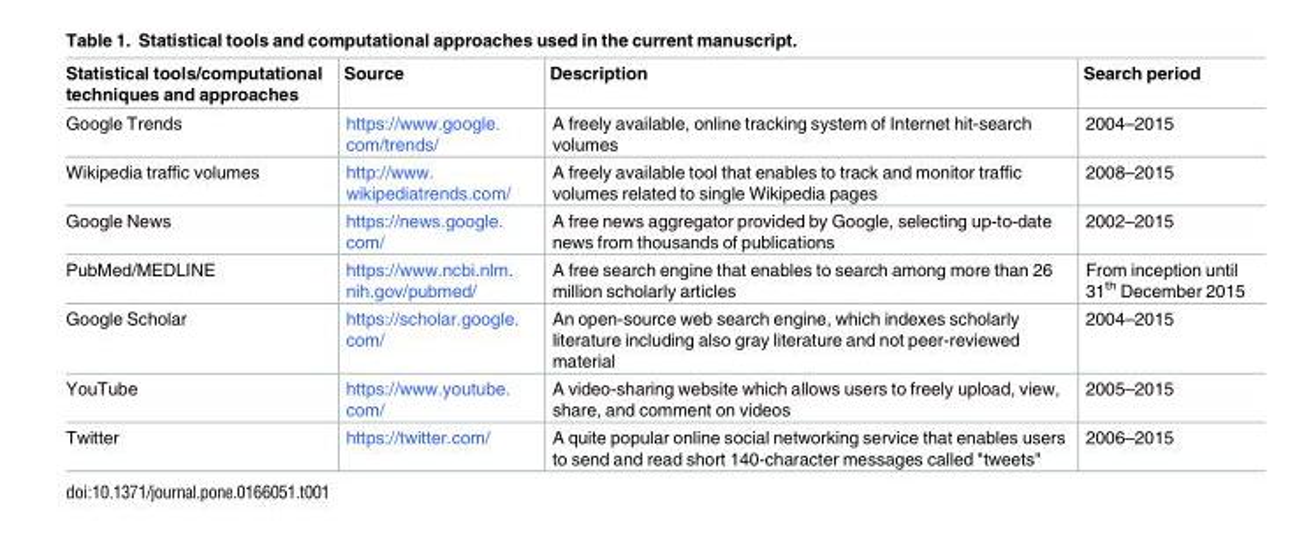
<table><thead><tr><td>Statistical tools/computational techniques and approaches</td><td>Source</td><td>Description</td><td>Search period</td></tr></thead><tbody><tr><td>Google Trends</td><td>https://www.google. com/trends/</td><td>A freely available, online tracking system of Internet hit-search volumes</td><td>2004–2015</td></tr><tr><td>Wikipedia traffic volumes</td><td>http://www. wikipediatrends.com/</td><td>A freely available tool that enables to track and monitor traffic volumes related to single Wikipedia pages</td><td>2008–2015</td></tr><tr><td>Google News</td><td>https://news.google. com/</td><td>A free news aggregator provided by Google, selecting up-to-date news from thousands of publications</td><td>2002–2015</td></tr><tr><td>PubMed/MEDLINE</td><td>https://www.ncbi.nlm. nih.gov/pubmed/</td><td>A free search engine that enables to search among more than 26 million scholarly articles</td><td>From inception until 31<sup>th</sup> December 2015</td></tr><tr><td>Google Scholar</td><td>https://scholar.google. com/</td><td>An open-source web search engine, which indexes scholarly literature including also gray literature and not peer-reviewed material</td><td>2004–2015</td></tr><tr><td>YouTube</td><td>https://www.youtube. com/</td><td>A video-sharing website which allows users to freely upload, view, share, and comment on videos</td><td>2005–2015</td></tr><tr><td>Twitter</td><td>https://twitter.com/</td><td>A quite popular online social networking service that enables users to send and read short 140-character messages called &quot;tweets&quot;</td><td>2006–2015</td></tr></tbody></table>